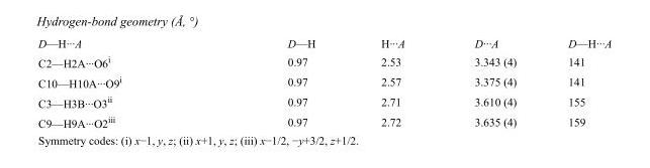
<table><tbody><tr><td>D—H···A</td><td>D—H</td><td>H···A</td><td>D···A</td><td>D—H···A</td></tr><tr><td>C2—H2A···O6<sup>i</sup></td><td>0.97</td><td>2.53</td><td>3.343 (4)</td><td>141</td></tr><tr><td>C10—H10A···O9<sup>i</sup></td><td>0.97</td><td>2.57</td><td>3.375 (4)</td><td>141</td></tr><tr><td>C3—H3B···O3<sup>ii</sup></td><td>0.97</td><td>2.71</td><td>3.610 (4)</td><td>155</td></tr><tr><td>C9—H9A···O2<sup>iii</sup></td><td>0.97</td><td>2.72</td><td>3.635 (4)</td><td>159</td></tr></tbody></table>